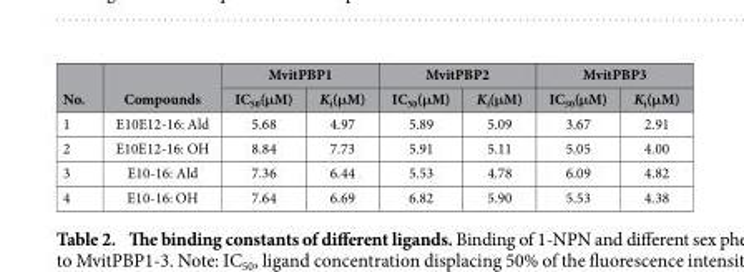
<table><thead><tr><td rowspan="2">No.</td><td rowspan="2">Compounds</td><td colspan="2">MvitPBP1</td><td colspan="2">MvitPBP2</td><td colspan="2">MvitPBP3</td></tr><tr><td>IC<sub>50</sub>(μM)</td><td>K<sub>i</sub>(μM)</td><td>IC<sub>50</sub>(μM)</td><td>K<sub>i</sub>(μM)</td><td>IC<sub>50</sub>(μM)</td><td>K<sub>i</sub>(μM)</td></tr></thead><tbody><tr><td>1</td><td>E10E12-16: Ald</td><td>5.68</td><td>4.97</td><td>5.89</td><td>5.09</td><td>3.67</td><td>2.91</td></tr><tr><td>2</td><td>E10E12-16: OH</td><td>8.84</td><td>7.73</td><td>5.91</td><td>5.11</td><td>5.05</td><td>4.00</td></tr><tr><td>3</td><td>E10-16: Ald</td><td>7.36</td><td>6.44</td><td>5.53</td><td>4.78</td><td>6.09</td><td>4.82</td></tr><tr><td>4</td><td>E10-16: OH</td><td>7.64</td><td>6.69</td><td>6.82</td><td>5.90</td><td>5.53</td><td>4.38</td></tr></tbody></table>